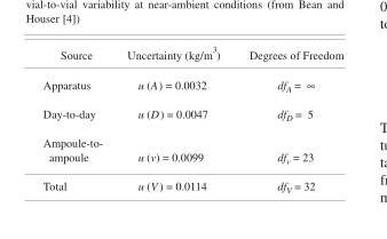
<table><thead><tr><td>Source</td><td>Uncertainty (kg/m <sup>3</sup>)</td><td>Degrees of Freedom</td></tr></thead><tbody><tr><td>Apparatus</td><td>u (A) = 0.0032</td><td>df<sub>A</sub> = ∞</td></tr><tr><td>Day-to-day</td><td>u (D) = 0.0047</td><td>df<sub>D</sub> = 5</td></tr><tr><td>Ampoule-to- ampoule</td><td>u (v) = 0.0099</td><td>df<sub>v</sub> = 23</td></tr><tr><td>Total</td><td>u (V) = 0.0114</td><td>df<sub>V</sub> = 32</td></tr></tbody></table>